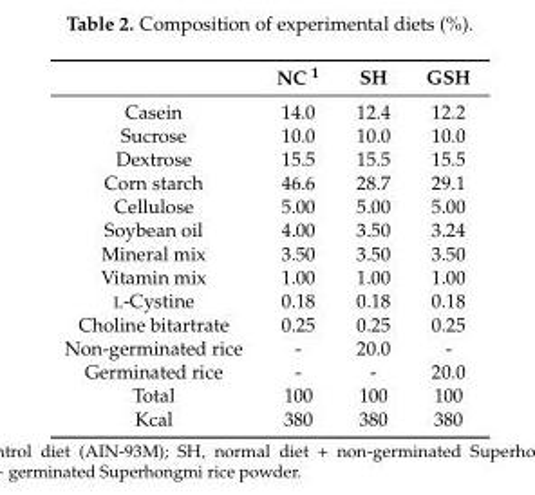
<table><thead><tr><td></td><td>NC <sup>1</sup></td><td>SH</td><td>GSH</td></tr></thead><tbody><tr><td>Casein</td><td>14.0</td><td>12.4</td><td>12.2</td></tr><tr><td>Sucrose</td><td>10.0</td><td>10.0</td><td>10.0</td></tr><tr><td>Dextrose</td><td>15.5</td><td>15.5</td><td>15.5</td></tr><tr><td>Corn starch</td><td>46.6</td><td>28.7</td><td>29.1</td></tr><tr><td>Cellulose</td><td>5.00</td><td>5.00</td><td>5.00</td></tr><tr><td>Soybean oil</td><td>4.00</td><td>3.50</td><td>3.24</td></tr><tr><td>Mineral mix</td><td>3.50</td><td>3.50</td><td>3.50</td></tr><tr><td>Vitamin mix</td><td>1.00</td><td>1.00</td><td>1.00</td></tr><tr><td>L-Cystine</td><td>0.18</td><td>0.18</td><td>0.18</td></tr><tr><td>Choline bitartrate</td><td>0.25</td><td>0.25</td><td>0.25</td></tr><tr><td>Non-germinated rice</td><td>-</td><td>20.0</td><td>-</td></tr><tr><td>Germinated rice</td><td>-</td><td>-</td><td>20.0</td></tr><tr><td>Total</td><td>100</td><td>100</td><td>100</td></tr><tr><td>Kcal</td><td>380</td><td>380</td><td>380</td></tr></tbody></table>